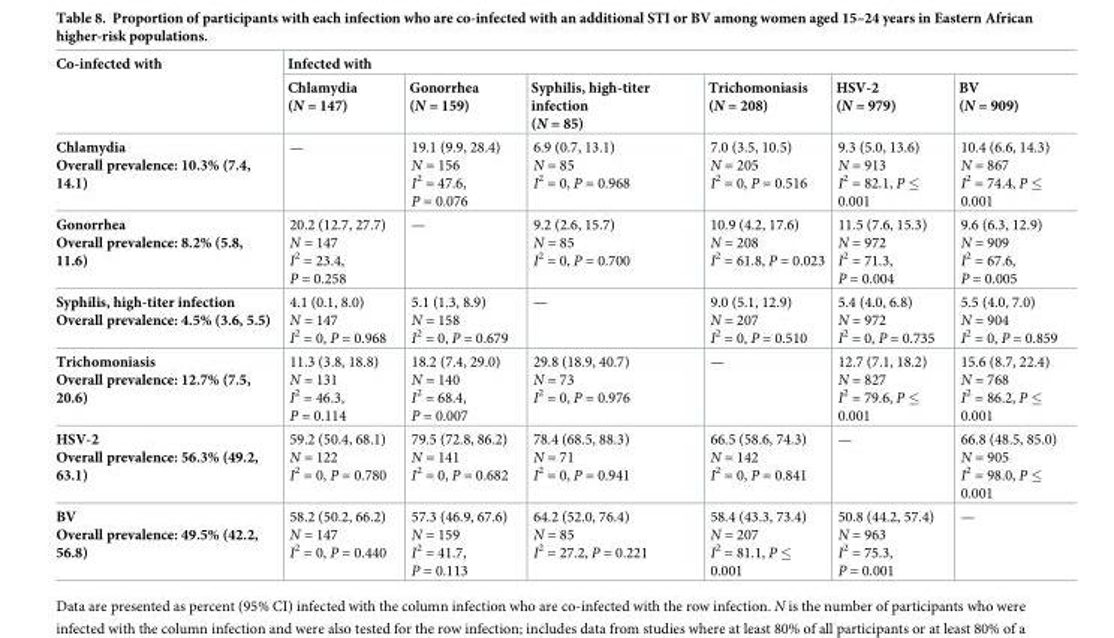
<table><thead><tr><td rowspan="2">Co-infected with</td><td colspan="6">Infected with</td></tr><tr><td>Chlamydia (N = 147)</td><td>Gonorrhea (N = 159)</td><td>Syphilis, high-titer infection (N = 85)</td><td>Trichomoniasis (N = 208)</td><td>HSV-2 (N = 979)</td><td>BV (N = 909)</td></tr></thead><tbody><tr><td>Chlamydia Overall prevalence: 10.3% (7.4, 14.1)</td><td>—</td><td>19.1 (9.9, 28.4) N = 156 I<sup>2</sup> = 47.6, P = 0.076</td><td>6.9 (0.7, 13.1) N = 85 I<sup>2</sup> = 0, P = 0.968</td><td>7.0 (3.5, 10.5) N = 205 I<sup>2</sup> = 0, P = 0.516</td><td>9.3 (5.0, 13.6) N = 913 I<sup>2</sup> = 82.1, P ≤ 0.001</td><td>10.4 (6.6, 14.3) N = 867 I<sup>2</sup> = 74.4, P ≤ 0.001</td></tr><tr><td>Gonorrhea Overall prevalence: 8.2% (5.8, 11.6)</td><td>20.2 (12.7, 27.7) N = 147 I<sup>2</sup> = 23.4, P = 0.258</td><td>—</td><td>9.2 (2.6, 15.7) N = 85 I<sup>2</sup> = 0, P = 0.700</td><td>10.9 (4.2, 17.6) N = 208 I<sup>2</sup> = 61.8, P = 0.023</td><td>11.5 (7.6, 15.3) N = 972 I<sup>2</sup> = 71.3, P = 0.004</td><td>9.6 (6.3, 12.9) N = 909 I<sup>2</sup> = 67.6, P = 0.005</td></tr><tr><td>Syphilis, high-titer infection Overall prevalence: 4.5% (3.6, 5.5)</td><td>4.1 (0.1, 8.0) N = 147 I<sup>2</sup> = 0, P = 0.968</td><td>5.1 (1.3, 8.9) N = 158 I<sup>2</sup> = 0, P = 0.679</td><td>—</td><td>9.0 (5.1, 12.9) N = 207 I<sup>2</sup> = 0, P = 0.510</td><td>5.4 (4.0, 6.8) N = 972 I<sup>2</sup> = 0, P = 0.735</td><td>5.5 (4.0, 7.0) N = 904 I<sup>2</sup> = 0, P = 0.859</td></tr><tr><td>Trichomoniasis Overall prevalence: 12.7% (7.5, 20.6)</td><td>11.3 (3.8, 18.8) N = 131 I<sup>2</sup> = 46.3, P = 0.114</td><td>18.2 (7.4, 29.0) N = 140 I<sup>2</sup> = 68.4, P = 0.007</td><td>29.8 (18.9, 40.7) N = 73 I<sup>2</sup> = 0, P = 0.976</td><td>—</td><td>12.7 (7.1, 18.2) N = 827 I<sup>2</sup> = 79.6, P ≤ 0.001</td><td>15.6 (8.7, 22.4) N = 768 I<sup>2</sup> = 86.2, P ≤ 0.001</td></tr><tr><td>HSV-2 Overall prevalence: 56.3% (49.2, 63.1)</td><td>59.2 (50.4, 68.1) N = 122 I<sup>2</sup> = 0, P = 0.780</td><td>79.5 (72.8, 86.2) N = 141 I<sup>2</sup> = 0, P = 0.682</td><td>78.4 (68.5, 88.3) N = 71 I<sup>2</sup> = 0, P = 0.941</td><td>66.5 (58.6, 74.3) N = 142 I<sup>2</sup> = 0, P = 0.841</td><td>—</td><td>66.8 (48.5, 85.0) N = 905 I<sup>2</sup> = 98.0, P ≤ 0.001</td></tr><tr><td>BV Overall prevalence: 49.5% (42.2, 56.8)</td><td>58.2 (50.2, 66.2) N = 147 I<sup>2</sup> = 0, P = 0.440</td><td>57.3 (46.9, 67.6) N = 159 I<sup>2</sup> = 41.7, P = 0.113</td><td>64.2 (52.0, 76.4) N = 85 I<sup>2</sup> = 27.2, P = 0.221</td><td>58.4 (43.3, 73.4) N = 207 I<sup>2</sup> = 81.1, P ≤ 0.001</td><td>50.8 (44.2, 57.4) N = 963 I<sup>2</sup> = 75.3, P = 0.001</td><td>—</td></tr></tbody></table>